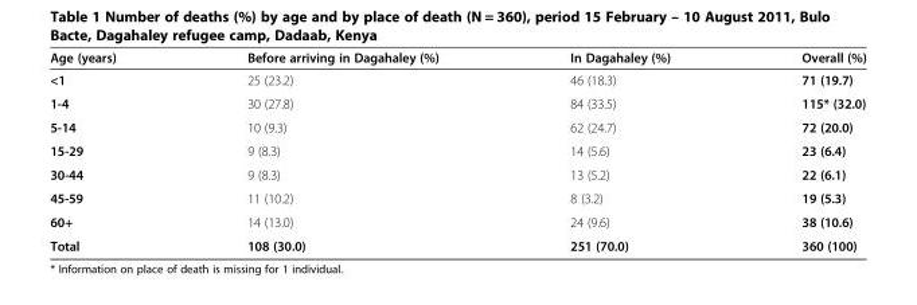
<table><thead><tr><td>Age (years)</td><td>Before arriving in Dagahaley (%)</td><td>In Dagahaley (%)</td><td>Overall (%)</td></tr></thead><tbody><tr><td>&lt;1</td><td>25 (23.2)</td><td>46 (18.3)</td><td>71 (19.7)</td></tr><tr><td>1-4</td><td>30 (27.8)</td><td>84 (33.5)</td><td>115* (32.0)</td></tr><tr><td>5-14</td><td>10 (9.3)</td><td>62 (24.7)</td><td>72 (20.0)</td></tr><tr><td>15-29</td><td>9 (8.3)</td><td>14 (5.6)</td><td>23 (6.4)</td></tr><tr><td>30-44</td><td>9 (8.3)</td><td>13 (5.2)</td><td>22 (6.1)</td></tr><tr><td>45-59</td><td>11 (10.2)</td><td>8 (3.2)</td><td>19 (5.3)</td></tr><tr><td>60+</td><td>14 (13.0)</td><td>24 (9.6)</td><td>38 (10.6)</td></tr><tr><td>Total</td><td>108 (30.0)</td><td>251 (70.0)</td><td>360 (100)</td></tr></tbody></table>